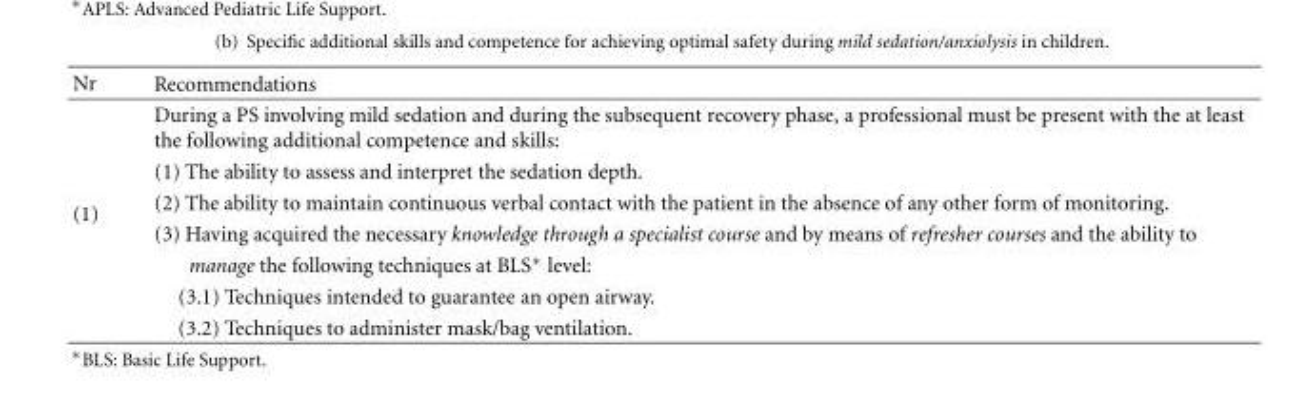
<table><thead><tr><td>Nr</td><td>Recommendations</td></tr></thead><tbody><tr><td rowspan="7">(1)</td><td>During a PS involving mild sedation and during the subsequent recovery phase, a professional must be present with the at least the following additional competence and skills:</td></tr><tr><td>(1) The ability to assess and interpret the sedation depth.</td></tr><tr><td>(2) The ability to maintain continuous verbal contact with the patient in the absence of any other form of monitoring.</td></tr><tr><td>(3) Having acquired the necessary knowledge through a specialist course and by means of refresher courses and the ability to</td></tr><tr><td>manage the following techniques at BLS∗ level:</td></tr><tr><td>(3.1) Techniques intended to guarantee an open airway.</td></tr><tr><td>(3.2) Techniques to administer mask/bag ventilation.</td></tr></tbody></table>